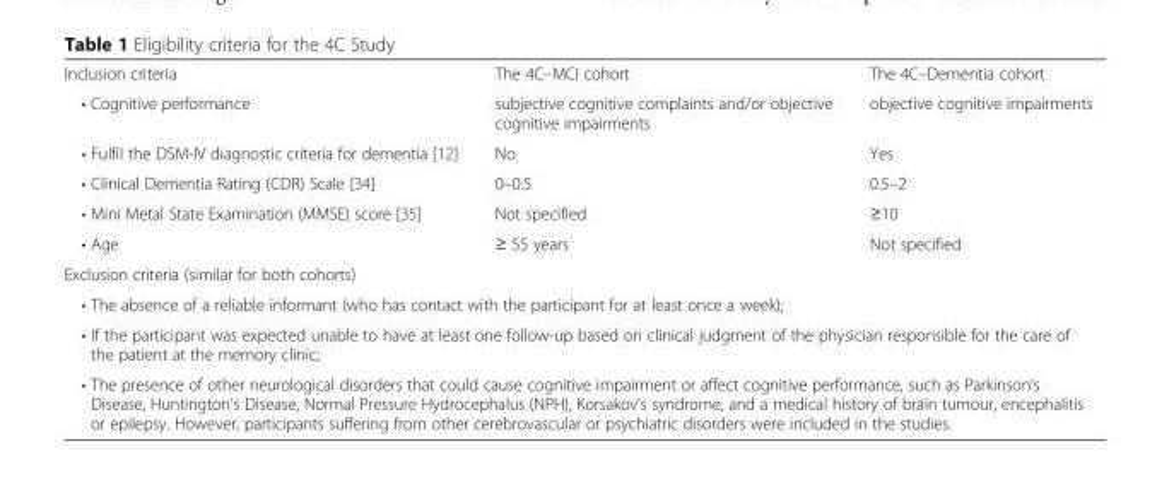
<table><tbody><tr><td>Inclusion criteria</td><td>The 4C–MCI cohort</td><td>The 4C–Dementia cohort</td></tr><tr><td>• Cognitive performance</td><td>subjective cognitive complaints and/or objective cognitive impairments</td><td>objective cognitive impairments</td></tr><tr><td>• Fulfil the DSM-IV diagnostic criteria for dementia [12]</td><td>No</td><td>Yes</td></tr><tr><td>• Clinical Dementia Rating (CDR) Scale [34]</td><td>0–0.5</td><td>0.5–2</td></tr><tr><td>• Mini Metal State Examination (MMSE) score [35]</td><td>Not specified</td><td>≥10</td></tr><tr><td>• Age</td><td>≥ 55 years</td><td>Not specified</td></tr><tr><td colspan="3">Exclusion criteria (similar for both cohorts)</td></tr><tr><td colspan="3">• The absence of a reliable informant (who has contact with the participant for at least once a week);</td></tr><tr><td colspan="3">• If the participant was expected unable to have at least one follow-up based on clinical judgment of the physician responsible for the care of the patient at the memory clinic;</td></tr><tr><td colspan="3">• The presence of other neurological disorders that could cause cognitive impairment or affect cognitive performance, such as Parkinson’s Disease, Huntington’s Disease, Normal Pressure Hydrocephalus (NPH), Korsakov’s syndrome, and a medical history of brain tumour, encephalitis or epilepsy. However, participants suffering from other cerebrovascular or psychiatric disorders were included in the studies.</td></tr></tbody></table>